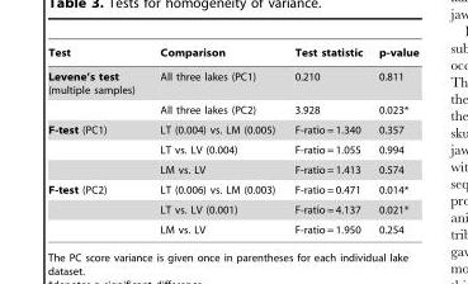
<table><thead><tr><td>Test</td><td>Comparison</td><td>Test statistic</td><td>p-value</td></tr></thead><tbody><tr><td rowspan="2">Levene’s test (multiple samples)</td><td>All three lakes (PC1)</td><td>0.210</td><td>0.811</td></tr><tr><td>All three lakes (PC2)</td><td>3.928</td><td>0.023*</td></tr><tr><td rowspan="3">F-test (PC1)</td><td>LT (0.004) vs. LM (0.005)</td><td>F-ratio = 1.340</td><td>0.357</td></tr><tr><td>LT vs. LV (0.004)</td><td>F-ratio = 1.055</td><td>0.994</td></tr><tr><td>LM vs. LV</td><td>F-ratio = 1.413</td><td>0.574</td></tr><tr><td rowspan="3">F-test (PC2)</td><td>LT (0.006) vs. LM (0.003)</td><td>F-ratio = 0.471</td><td>0.014*</td></tr><tr><td>LT vs. LV (0.001)</td><td>F-ratio = 4.137</td><td>0.021*</td></tr><tr><td>LM vs. LV</td><td>F-ratio = 1.950</td><td>0.254</td></tr></tbody></table>